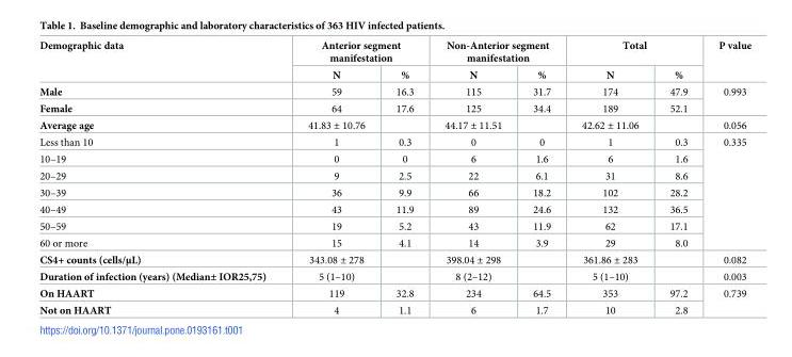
<table><thead><tr><td rowspan="2">Demographic data</td><td colspan="2">Anterior segment manifestation</td><td colspan="2">Non-Anterior segment manifestation</td><td colspan="2">Total</td><td rowspan="2">P value</td></tr><tr><td>N</td><td>%</td><td>N</td><td>%</td><td>N</td><td>%</td></tr></thead><tbody><tr><td>Male</td><td>59</td><td>16.3</td><td>115</td><td>31.7</td><td>174</td><td>47.9</td><td rowspan="2">0.993</td></tr><tr><td>Female</td><td>64</td><td>17.6</td><td>125</td><td>34.4</td><td>189</td><td>52.1</td></tr><tr><td>Average age</td><td>41.83 ± 10.76</td><td></td><td>44.17 ± 11.51</td><td></td><td>42.62 ± 11.06</td><td></td><td>0.056</td></tr><tr><td>Less than 10</td><td>1</td><td>0.3</td><td>0</td><td>0</td><td>1</td><td>0.3</td><td rowspan="7">0.335</td></tr><tr><td>10–19</td><td>0</td><td>0</td><td>6</td><td>1.6</td><td>6</td><td>1.6</td></tr><tr><td>20–29</td><td>9</td><td>2.5</td><td>22</td><td>6.1</td><td>31</td><td>8.6</td></tr><tr><td>30–39</td><td>36</td><td>9.9</td><td>66</td><td>18.2</td><td>102</td><td>28.2</td></tr><tr><td>40–49</td><td>43</td><td>11.9</td><td>89</td><td>24.6</td><td>132</td><td>36.5</td></tr><tr><td>50–59</td><td>19</td><td>5.2</td><td>43</td><td>11.9</td><td>62</td><td>17.1</td></tr><tr><td>60 or more</td><td>15</td><td>4.1</td><td>14</td><td>3.9</td><td>29</td><td>8.0</td></tr><tr><td>CS4+ counts (cells/μL)</td><td>343.08 ± 278</td><td></td><td>398.04 ± 298</td><td></td><td>361.86 ± 283</td><td></td><td>0.082</td></tr><tr><td>Duration of infection (years) (Median± IOR25,75)</td><td>5 (1–10)</td><td></td><td>8 (2–12)</td><td></td><td>5 (1–10)</td><td></td><td>0.003</td></tr><tr><td>On HAART</td><td>119</td><td>32.8</td><td>234</td><td>64.5</td><td>353</td><td>97.2</td><td rowspan="2">0.739</td></tr><tr><td>Not on HAART</td><td>4</td><td>1.1</td><td>6</td><td>1.7</td><td>10</td><td>2.8</td></tr></tbody></table>